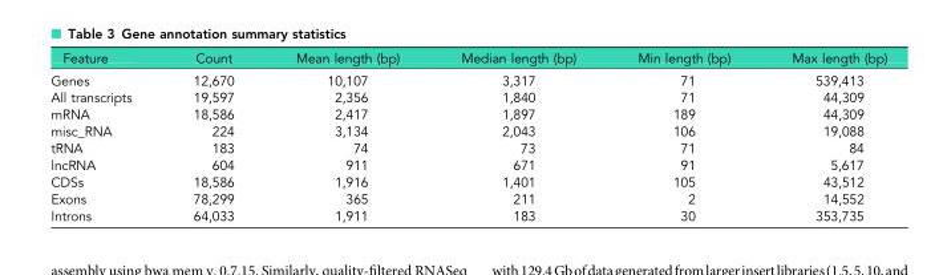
<table><thead><tr><td>Feature</td><td>Count</td><td>Mean length (bp)</td><td>Median length (bp)</td><td>Min length (bp)</td><td>Max length (bp)</td></tr></thead><tbody><tr><td>Genes</td><td>12,670</td><td>10,107</td><td>3,317</td><td>71</td><td>539,413</td></tr><tr><td>All transcripts</td><td>19,597</td><td>2,356</td><td>1,840</td><td>71</td><td>44,309</td></tr><tr><td>mRNA</td><td>18,586</td><td>2,417</td><td>1,897</td><td>189</td><td>44,309</td></tr><tr><td>misc_RNA</td><td>224</td><td>3,134</td><td>2,043</td><td>106</td><td>19,088</td></tr><tr><td>tRNA</td><td>183</td><td>74</td><td>73</td><td>71</td><td>84</td></tr><tr><td>lncRNA</td><td>604</td><td>911</td><td>671</td><td>91</td><td>5,617</td></tr><tr><td>CDSs</td><td>18,586</td><td>1,916</td><td>1,401</td><td>105</td><td>43,512</td></tr><tr><td>Exons</td><td>78,299</td><td>365</td><td>211</td><td>2</td><td>14,552</td></tr><tr><td>Introns</td><td>64,033</td><td>1,911</td><td>183</td><td>30</td><td>353,735</td></tr></tbody></table>